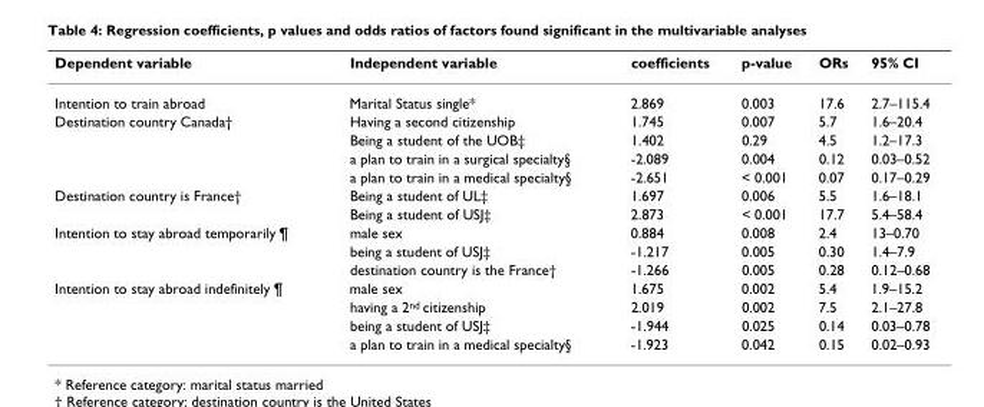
<table><thead><tr><td>Dependent variable</td><td>Independent variable</td><td>coefficients</td><td>p-value</td><td>ORs</td><td>95% CI</td></tr></thead><tbody><tr><td>Intention to train abroad</td><td>Marital Status single*</td><td>2.869</td><td>0.003</td><td>17.6</td><td>2.7–115.4</td></tr><tr><td rowspan="4">Destination country Canada†</td><td>Having a second citizenship</td><td>1.745</td><td>0.007</td><td>5.7</td><td>1.6–20.4</td></tr><tr><td>Being a student of the UOB‡</td><td>1.402</td><td>0.29</td><td>4.5</td><td>1.2–17.3</td></tr><tr><td>a plan to train in a surgical specialty§</td><td>-2.089</td><td>0.004</td><td>0.12</td><td>0.03–0.52</td></tr><tr><td>a plan to train in a medical specialty§</td><td>-2.651</td><td>&lt; 0.001</td><td>0.07</td><td>0.17–0.29</td></tr><tr><td rowspan="2">Destination country is France†</td><td>Being a student of UL‡</td><td>1.697</td><td>0.006</td><td>5.5</td><td>1.6–18.1</td></tr><tr><td>Being a student of USJ‡</td><td>2.873</td><td>&lt; 0.001</td><td>17.7</td><td>5.4–58.4</td></tr><tr><td rowspan="3">Intention to stay abroad temporarily ¶</td><td>male sex</td><td>0.884</td><td>0.008</td><td>2.4</td><td>13–0.70</td></tr><tr><td>being a student of USJ‡</td><td>-1.217</td><td>0.005</td><td>0.30</td><td>1.4–7.9</td></tr><tr><td>destination country is the France†</td><td>-1.266</td><td>0.005</td><td>0.28</td><td>0.12–0.68</td></tr><tr><td rowspan="4">Intention to stay abroad indefinitely ¶</td><td>male sex</td><td>1.675</td><td>0.002</td><td>5.4</td><td>1.9–15.2</td></tr><tr><td>having a 2<sup>nd</sup> citizenship</td><td>2.019</td><td>0.002</td><td>7.5</td><td>2.1–27.8</td></tr><tr><td>being a student of USJ‡</td><td>-1.944</td><td>0.025</td><td>0.14</td><td>0.03–0.78</td></tr><tr><td>a plan to train in a medical specialty§</td><td>-1.923</td><td>0.042</td><td>0.15</td><td>0.02–0.93</td></tr></tbody></table>